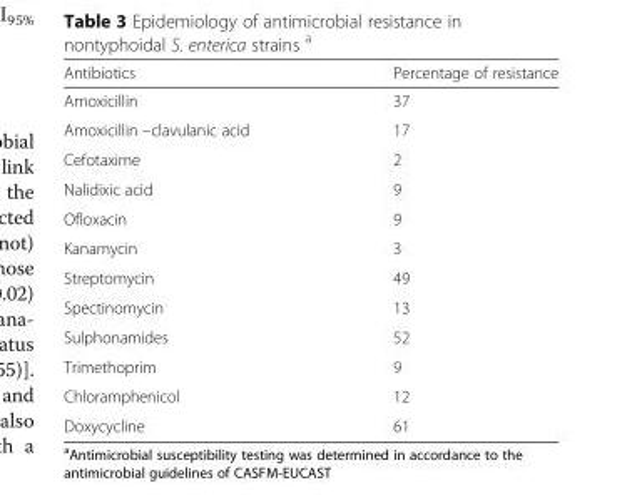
<table><thead><tr><td>Antibiotics</td><td>Percentage of resistance</td></tr></thead><tbody><tr><td>Amoxicillin</td><td>37</td></tr><tr><td>Amoxicillin –clavulanic acid</td><td>17</td></tr><tr><td>Cefotaxime</td><td>2</td></tr><tr><td>Nalidixic acid</td><td>9</td></tr><tr><td>Ofloxacin</td><td>9</td></tr><tr><td>Kanamycin</td><td>3</td></tr><tr><td>Streptomycin</td><td>49</td></tr><tr><td>Spectinomycin</td><td>13</td></tr><tr><td>Sulphonamides</td><td>52</td></tr><tr><td>Trimethoprim</td><td>9</td></tr><tr><td>Chloramphenicol</td><td>12</td></tr><tr><td>Doxycycline</td><td>61</td></tr></tbody></table>